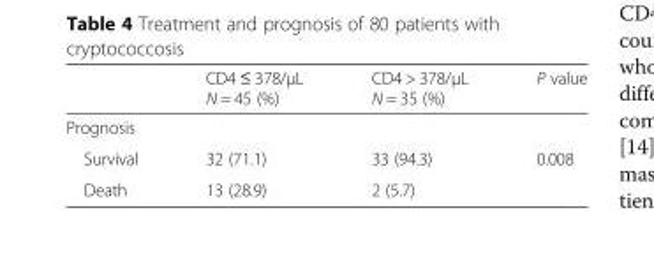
<table><thead><tr><td></td><td>CD4 ≤ 378/μL N = 45 (%)</td><td>CD4 &gt; 378/μL N = 35 (%)</td><td>P value</td></tr></thead><tbody><tr><td colspan="4">Prognosis</td></tr><tr><td>Survival</td><td>32 (71.1)</td><td>33 (94.3)</td><td>0.008</td></tr><tr><td>Death</td><td>13 (28.9)</td><td>2 (5.7)</td><td></td></tr></tbody></table>